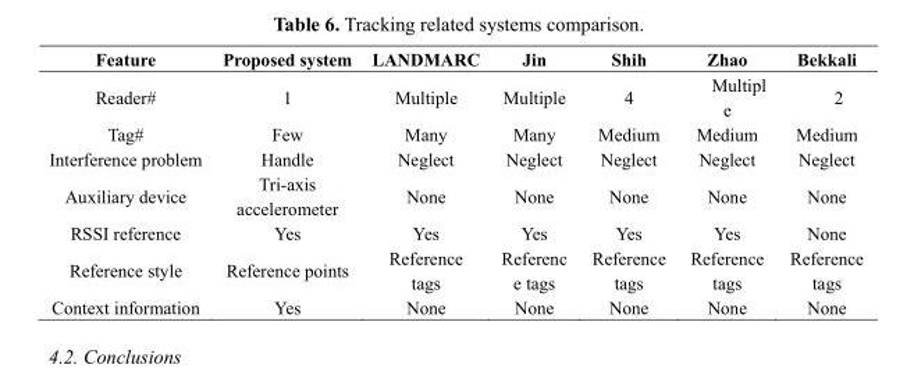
<table><thead><tr><td>Feature</td><td>Proposed system</td><td>LANDMARC</td><td>Jin</td><td>Shih</td><td>Zhao</td><td>Bekkali</td></tr></thead><tbody><tr><td>Reader#</td><td>1</td><td>Multiple</td><td>Multiple</td><td>4</td><td>Multipl e</td><td>2</td></tr><tr><td>Tag#</td><td>Few</td><td>Many</td><td>Many</td><td>Medium</td><td>Medium</td><td>Medium</td></tr><tr><td>Interference problem</td><td>Handle</td><td>Neglect</td><td>Neglect</td><td>Neglect</td><td>Neglect</td><td>Neglect</td></tr><tr><td>Auxiliary device</td><td>Tri-axis accelerometer</td><td>None</td><td>None</td><td>None</td><td>None</td><td>None</td></tr><tr><td>RSSI reference</td><td>Yes</td><td>Yes</td><td>Yes</td><td>Yes</td><td>Yes</td><td>None</td></tr><tr><td>Reference style</td><td>Reference points</td><td>Reference tags</td><td>Referenc e tags</td><td>Reference tags</td><td>Reference tags</td><td>Reference tags</td></tr><tr><td>Context information</td><td>Yes</td><td>None</td><td>None</td><td>None</td><td>None</td><td>None</td></tr></tbody></table>